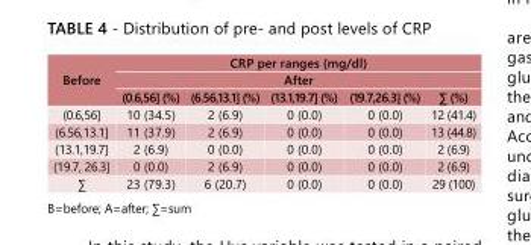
<table><tbody><tr><td rowspan="3">Before</td><td colspan="5">CRP per ranges (mg/dl)</td></tr><tr><td colspan="5">After</td></tr><tr><td>(0.6,56] (%)</td><td>(6.56,13.1] (%)</td><td>(13.1,19.7] (%)</td><td>(19.7,26.3] (%)</td><td>∑ (%)</td></tr><tr><td>(0.6,56]</td><td>10 (34.5)</td><td>2 (6.9)</td><td>0 (0.0)</td><td>0 (0.0)</td><td>12 (41.4)</td></tr><tr><td>(6.56,13.1]</td><td>11 (37.9)</td><td>2 (6.9)</td><td>0 (0.0)</td><td>0 (0.0)</td><td>13 (44.8)</td></tr><tr><td>(13.1,19.7]</td><td>2 (6.9)</td><td>0 (0.0)</td><td>0 (0.0)</td><td>0 (0.0)</td><td>2 (6.9)</td></tr><tr><td>(19.7, 26.3]</td><td>0 (0.0)</td><td>2 (6.9)</td><td>0 (0.0)</td><td>0 (0.0)</td><td>2 (6.9)</td></tr><tr><td>∑</td><td>23 (79.3)</td><td>6 (20.7)</td><td>0 (0.0)</td><td>0 (0.0)</td><td>29 (100)</td></tr></tbody></table>